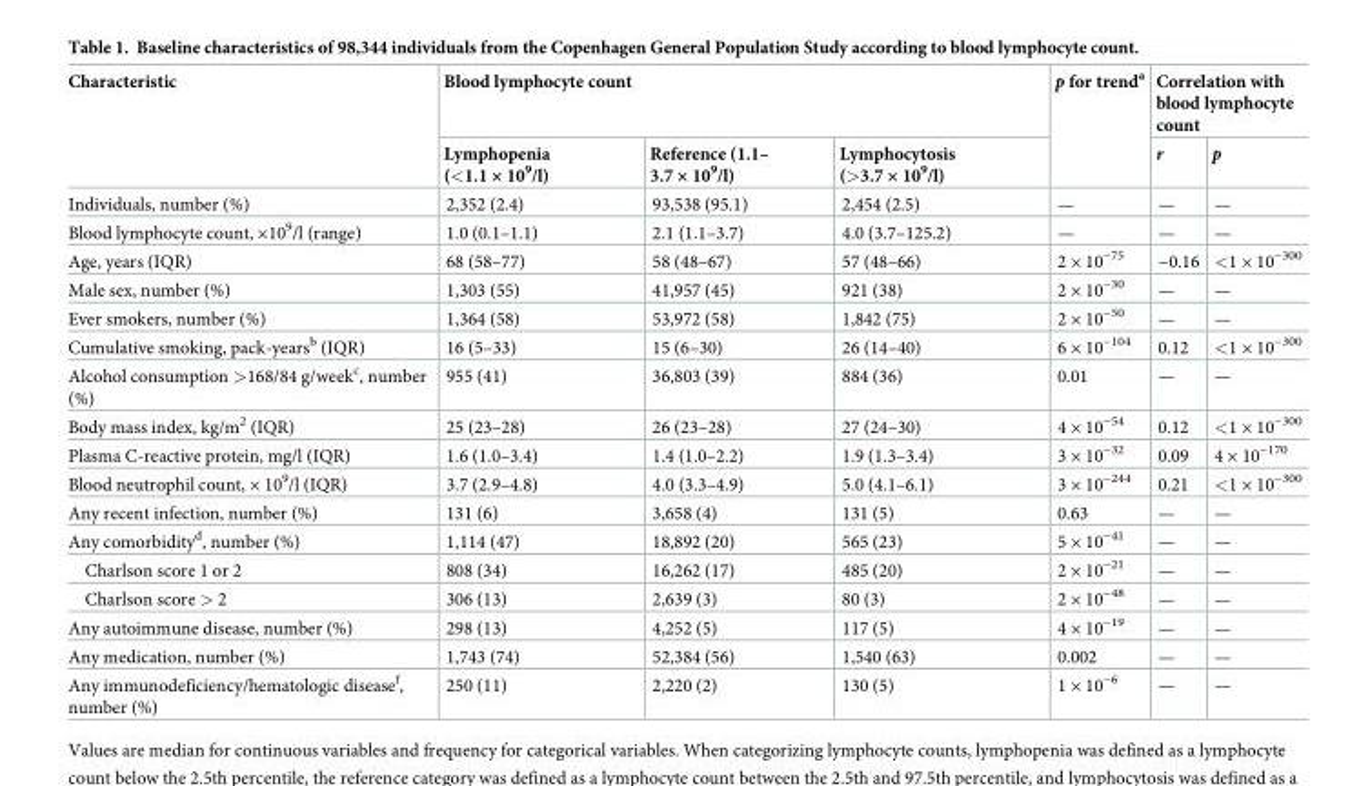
<table><thead><tr><td rowspan="2">Characteristic</td><td colspan="3">Blood lymphocyte count</td><td rowspan="2">p for trend<sup>a</sup></td><td colspan="2">Correlation with blood lymphocyte count</td></tr><tr><td>Lymphopenia (&lt;1.1 × 10<sup>9</sup>/l)</td><td>Reference (1.1– 3.7 × 10<sup>9</sup>/l)</td><td>Lymphocytosis (&gt;3.7 × 10<sup>9</sup>/l)</td><td>r</td><td>p</td></tr></thead><tbody><tr><td>Individuals, number (%)</td><td>2,352 (2.4)</td><td>93,538 (95.1)</td><td>2,454 (2.5)</td><td>—</td><td>—</td><td>—</td></tr><tr><td>Blood lymphocyte count, ×10<sup>9</sup>/l (range)</td><td>1.0 (0.1–1.1)</td><td>2.1 (1.1–3.7)</td><td>4.0 (3.7–125.2)</td><td>—</td><td>—</td><td>—</td></tr><tr><td>Age, years (IQR)</td><td>68 (58–77)</td><td>58 (48–67)</td><td>57 (48–66)</td><td>2 × 10<sup>−75</sup></td><td>−0.16</td><td>&lt;1 × 10<sup>−300</sup></td></tr><tr><td>Male sex, number (%)</td><td>1,303 (55)</td><td>41,957 (45)</td><td>921 (38)</td><td>2 × 10<sup>−30</sup></td><td>—</td><td>—</td></tr><tr><td>Ever smokers, number (%)</td><td>1,364 (58)</td><td>53,972 (58)</td><td>1,842 (75)</td><td>2 × 10<sup>−50</sup></td><td>—</td><td>—</td></tr><tr><td>Cumulative smoking, pack-years<sup>b</sup> (IQR)</td><td>16 (5–33)</td><td>15 (6–30)</td><td>26 (14–40)</td><td>6 × 10<sup>−104</sup></td><td>0.12</td><td>&lt;1 × 10<sup>−300</sup></td></tr><tr><td>Alcohol consumption &gt;168/84 g/week<sup>c</sup>, number (%)</td><td>955 (41)</td><td>36,803 (39)</td><td>884 (36)</td><td>0.01</td><td>—</td><td>—</td></tr><tr><td>Body mass index, kg/m<sup>2</sup> (IQR)</td><td>25 (23–28)</td><td>26 (23–28)</td><td>27 (24–30)</td><td>4 × 10<sup>−54</sup></td><td>0.12</td><td>&lt;1 × 10<sup>−300</sup></td></tr><tr><td>Plasma C-reactive protein, mg/l (IQR)</td><td>1.6 (1.0–3.4)</td><td>1.4 (1.0–2.2)</td><td>1.9 (1.3–3.4)</td><td>3 × 10<sup>−32</sup></td><td>0.09</td><td>4 × 10<sup>−170</sup></td></tr><tr><td>Blood neutrophil count, × 10<sup>9</sup>/l (IQR)</td><td>3.7 (2.9–4.8)</td><td>4.0 (3.3–4.9)</td><td>5.0 (4.1–6.1)</td><td>3 × 10<sup>−244</sup></td><td>0.21</td><td>&lt;1 × 10<sup>−300</sup></td></tr><tr><td>Any recent infection, number (%)</td><td>131 (6)</td><td>3,658 (4)</td><td>131 (5)</td><td>0.63</td><td>—</td><td>—</td></tr><tr><td>Any comorbidity<sup>d</sup>, number (%)</td><td>1,114 (47)</td><td>18,892 (20)</td><td>565 (23)</td><td>5 × 10<sup>−41</sup></td><td>—</td><td>—</td></tr><tr><td>Charlson score 1 or 2</td><td>808 (34)</td><td>16,262 (17)</td><td>485 (20)</td><td>2 × 10<sup>−21</sup></td><td>—</td><td>—</td></tr><tr><td>Charlson score &gt; 2</td><td>306 (13)</td><td>2,639 (3)</td><td>80 (3)</td><td>2 × 10<sup>−48</sup></td><td>—</td><td>—</td></tr><tr><td>Any autoimmune disease, number (%)</td><td>298 (13)</td><td>4,252 (5)</td><td>117 (5)</td><td>4 × 10<sup>−19</sup></td><td>—</td><td>—</td></tr><tr><td>Any medication, number (%)</td><td>1,743 (74)</td><td>52,384 (56)</td><td>1,540 (63)</td><td>0.002</td><td>—</td><td>—</td></tr><tr><td>Any immunodeficiency/hematologic disease<sup>f</sup>, number (%)</td><td>250 (11)</td><td>2,220 (2)</td><td>130 (5)</td><td>1 × 10<sup>−6</sup></td><td>—</td><td>—</td></tr></tbody></table>